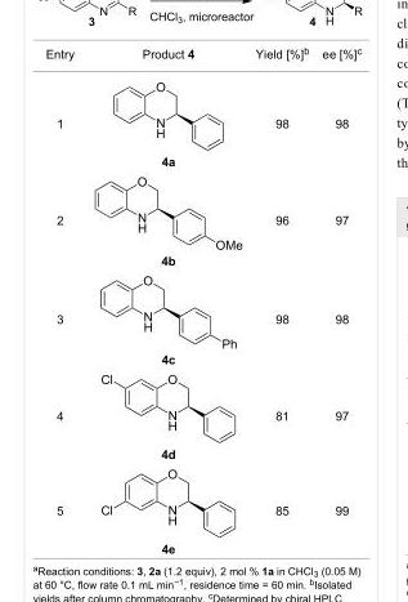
<table><tbody><tr><td>Entry</td><td>Product 4</td><td>Yield [%]<sup>b</sup></td><td>ee [%]<sup>c</sup></td></tr><tr><td>1</td><td>4a</td><td>98</td><td>98</td></tr><tr><td>2</td><td>4b</td><td>96</td><td>97</td></tr><tr><td>3</td><td>4c</td><td>98</td><td>98</td></tr><tr><td>4</td><td>4d</td><td>81</td><td>97</td></tr><tr><td>5</td><td>4e</td><td>85</td><td>99</td></tr></tbody></table>